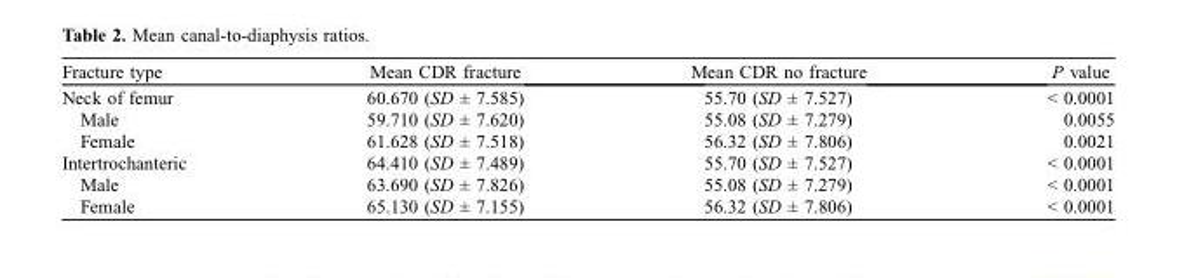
<table><thead><tr><td>Fracture type</td><td>Mean CDR fracture</td><td>Mean CDR no fracture</td><td>P value</td></tr></thead><tbody><tr><td>Neck of femur</td><td>60.670 (SD ± 7.585)</td><td>55.70 (SD ± 7.527)</td><td>&lt; 0.0001</td></tr><tr><td>Male</td><td>59.710 (SD ± 7.620)</td><td>55.08 (SD ± 7.279)</td><td>0.0055</td></tr><tr><td>Female</td><td>61.628 (SD ± 7.518)</td><td>56.32 (SD ± 7.806)</td><td>0.0021</td></tr><tr><td>Intertrochanteric</td><td>64.410 (SD ± 7.489)</td><td>55.70 (SD ± 7.527)</td><td>&lt; 0.0001</td></tr><tr><td>Male</td><td>63.690 (SD ± 7.826)</td><td>55.08 (SD ± 7.279)</td><td>&lt; 0.0001</td></tr><tr><td>Female</td><td>65.130 (SD ± 7.155)</td><td>56.32 (SD ± 7.806)</td><td>&lt; 0.0001</td></tr></tbody></table>